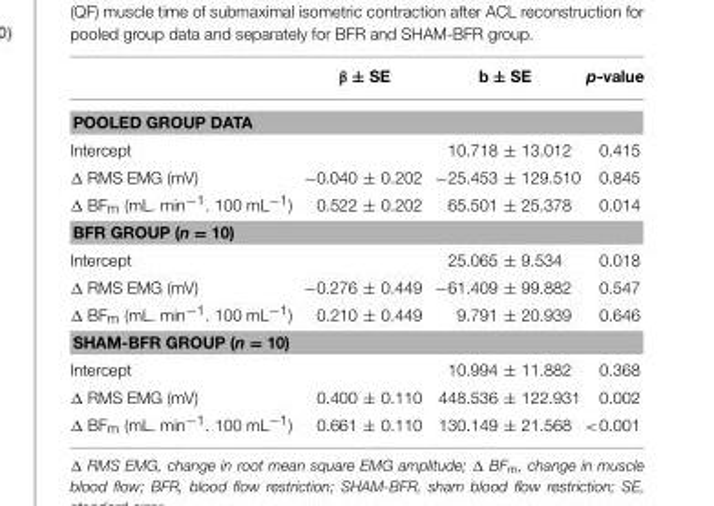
<table><thead><tr><td></td><td>β ± SE</td><td>b ± SE</td><td>p-value</td></tr></thead><tbody><tr><td colspan="4">POOLED GROUP DATA</td></tr><tr><td>Intercept</td><td></td><td>10.718 ± 13.012</td><td>0.415</td></tr><tr><td>Δ RMS EMG (mV)</td><td>−0.040 ± 0.202</td><td>−25.453 ± 129.510</td><td>0.845</td></tr><tr><td>Δ BF<sub>m</sub> (mL. min<sup>−1</sup>. 100 mL<sup>−1</sup>)</td><td>0.522 ± 0.202</td><td>65.501 ± 25.378</td><td>0.014</td></tr><tr><td colspan="4">BFR GROUP (n = 10)</td></tr><tr><td>Intercept</td><td></td><td>25.065 ± 9.534</td><td>0.018</td></tr><tr><td>Δ RMS EMG (mV)</td><td>−0.276 ± 0.449</td><td>−61.409 ± 99.882</td><td>0.547</td></tr><tr><td>Δ BF<sub>m</sub> (mL. min<sup>−1</sup>. 100 mL<sup>−1</sup>)</td><td>0.210 ± 0.449</td><td>9.791 ± 20.939</td><td>0.646</td></tr><tr><td colspan="4">SHAM-BFR GROUP (n = 10)</td></tr><tr><td>Intercept</td><td></td><td>10.994 ± 11.882</td><td>0.368</td></tr><tr><td>Δ RMS EMG (mV)</td><td>0.400 ± 0.110</td><td>448.536 ± 122.931</td><td>0.002</td></tr><tr><td>Δ BF<sub>m</sub> (mL. min<sup>−1</sup>. 100 mL<sup>−1</sup>)</td><td>0.661 ± 0.110</td><td>130.149 ± 21.568</td><td>&lt;0.001</td></tr></tbody></table>